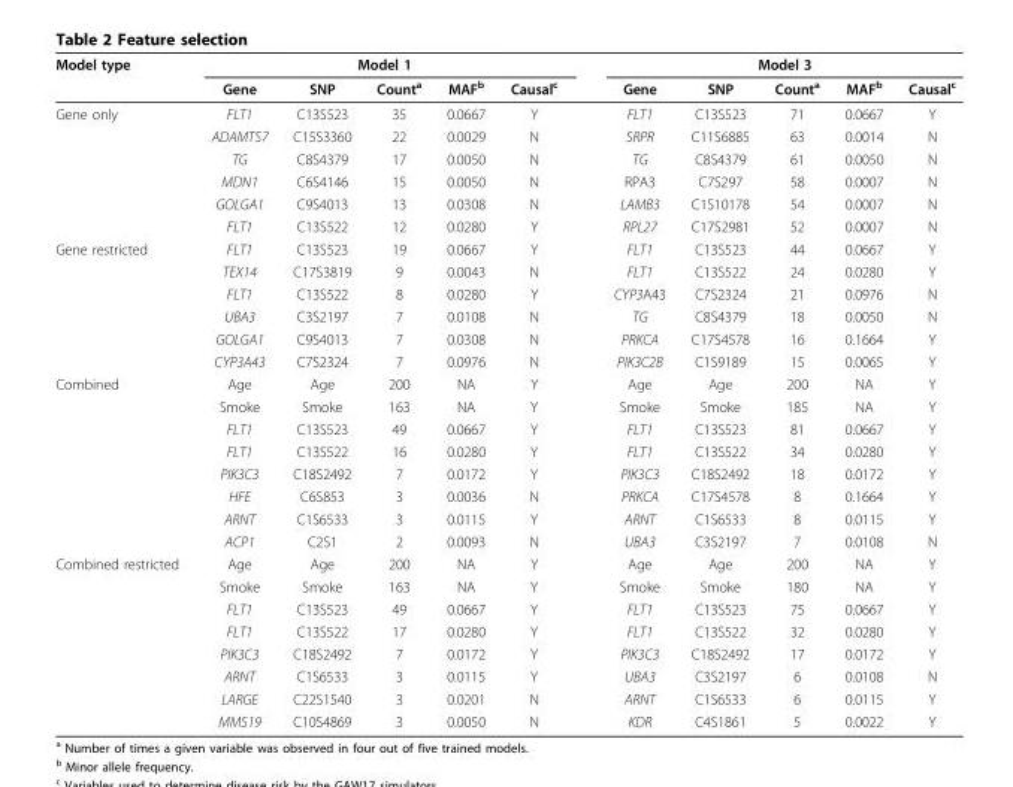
<table><thead><tr><td rowspan="2">Model type</td><td colspan="5">Model 1</td><td colspan="5">Model 3</td></tr><tr><td>Gene</td><td>SNP</td><td>Count<sup>a</sup></td><td>MAF<sup>b</sup></td><td>Causal<sup>c</sup></td><td>Gene</td><td>SNP</td><td>Count<sup>a</sup></td><td>MAF<sup>b</sup></td><td>Causal<sup>c</sup></td></tr></thead><tbody><tr><td rowspan="6">Gene only</td><td>FLT1</td><td>C13S523</td><td>35</td><td>0.0667</td><td>Y</td><td>FLT1</td><td>C13S523</td><td>71</td><td>0.0667</td><td>Y</td></tr><tr><td>ADAMTS7</td><td>C15S3360</td><td>22</td><td>0.0029</td><td>N</td><td>SRPR</td><td>C11S6885</td><td>63</td><td>0.0014</td><td>N</td></tr><tr><td>TG</td><td>C8S4379</td><td>17</td><td>0.0050</td><td>N</td><td>TG</td><td>C8S4379</td><td>61</td><td>0.0050</td><td>N</td></tr><tr><td>MDN1</td><td>C6S4146</td><td>15</td><td>0.0050</td><td>N</td><td>RPA3</td><td>C7S297</td><td>58</td><td>0.0007</td><td>N</td></tr><tr><td>GOLGA1</td><td>C9S4013</td><td>13</td><td>0.0308</td><td>N</td><td>LAMB3</td><td>C1S10178</td><td>54</td><td>0.0007</td><td>N</td></tr><tr><td>FLT1</td><td>C13S522</td><td>12</td><td>0.0280</td><td>Y</td><td>RPL27</td><td>C17S2981</td><td>52</td><td>0.0007</td><td>N</td></tr><tr><td rowspan="6">Gene restricted</td><td>FLT1</td><td>C13S523</td><td>19</td><td>0.0667</td><td>Y</td><td>FLT1</td><td>C13S523</td><td>44</td><td>0.0667</td><td>Y</td></tr><tr><td>TEX14</td><td>C17S3819</td><td>9</td><td>0.0043</td><td>N</td><td>FLT1</td><td>C13S522</td><td>24</td><td>0.0280</td><td>Y</td></tr><tr><td>FLT1</td><td>C13S522</td><td>8</td><td>0.0280</td><td>Y</td><td>CYP3A43</td><td>C7S2324</td><td>21</td><td>0.0976</td><td>N</td></tr><tr><td>UBA3</td><td>C3S2197</td><td>7</td><td>0.0108</td><td>N</td><td>TG</td><td>C8S4379</td><td>18</td><td>0.0050</td><td>N</td></tr><tr><td>GOLGA1</td><td>C9S4013</td><td>7</td><td>0.0308</td><td>N</td><td>PRKCA</td><td>C17S4578</td><td>16</td><td>0.1664</td><td>Y</td></tr><tr><td>CYP3A43</td><td>C7S2324</td><td>7</td><td>0.0976</td><td>N</td><td>PIK3C2B</td><td>C1S9189</td><td>15</td><td>0.0065</td><td>Y</td></tr><tr><td rowspan="8">Combined</td><td>Age</td><td>Age</td><td>200</td><td>NA</td><td>Y</td><td>Age</td><td>Age</td><td>200</td><td>NA</td><td>Y</td></tr><tr><td>Smoke</td><td>Smoke</td><td>163</td><td>NA</td><td>Y</td><td>Smoke</td><td>Smoke</td><td>185</td><td>NA</td><td>Y</td></tr><tr><td>FLT1</td><td>C13S523</td><td>49</td><td>0.0667</td><td>Y</td><td>FLT1</td><td>C13S523</td><td>81</td><td>0.0667</td><td>Y</td></tr><tr><td>FLT1</td><td>C13S522</td><td>16</td><td>0.0280</td><td>Y</td><td>FLT1</td><td>C13S522</td><td>34</td><td>0.0280</td><td>Y</td></tr><tr><td>PIK3C3</td><td>C18S2492</td><td>7</td><td>0.0172</td><td>Y</td><td>PIK3C3</td><td>C18S2492</td><td>18</td><td>0.0172</td><td>Y</td></tr><tr><td>HFE</td><td>C6S853</td><td>3</td><td>0.0036</td><td>N</td><td>PRKCA</td><td>C17S4578</td><td>8</td><td>0.1664</td><td>Y</td></tr><tr><td>ARNT</td><td>C1S6533</td><td>3</td><td>0.0115</td><td>Y</td><td>ARNT</td><td>C1S6533</td><td>8</td><td>0.0115</td><td>Y</td></tr><tr><td>ACP1</td><td>C2S1</td><td>2</td><td>0.0093</td><td>N</td><td>UBA3</td><td>C3S2197</td><td>7</td><td>0.0108</td><td>N</td></tr><tr><td rowspan="8">Combined restricted</td><td>Age</td><td>Age</td><td>200</td><td>NA</td><td>Y</td><td>Age</td><td>Age</td><td>200</td><td>NA</td><td>Y</td></tr><tr><td>Smoke</td><td>Smoke</td><td>163</td><td>NA</td><td>Y</td><td>Smoke</td><td>Smoke</td><td>180</td><td>NA</td><td>Y</td></tr><tr><td>FLT1</td><td>C13S523</td><td>49</td><td>0.0667</td><td>Y</td><td>FLT1</td><td>C13S523</td><td>75</td><td>0.0667</td><td>Y</td></tr><tr><td>FLT1</td><td>C13S522</td><td>17</td><td>0.0280</td><td>Y</td><td>FLT1</td><td>C13S522</td><td>32</td><td>0.0280</td><td>Y</td></tr><tr><td>PIK3C3</td><td>C18S2492</td><td>7</td><td>0.0172</td><td>Y</td><td>PIK3C3</td><td>C18S2492</td><td>17</td><td>0.0172</td><td>Y</td></tr><tr><td>ARNT</td><td>C1S6533</td><td>3</td><td>0.0115</td><td>Y</td><td>UBA3</td><td>C3S2197</td><td>6</td><td>0.0108</td><td>N</td></tr><tr><td>LARGE</td><td>C22S1540</td><td>3</td><td>0.0201</td><td>N</td><td>ARNT</td><td>C1S6533</td><td>6</td><td>0.0115</td><td>Y</td></tr><tr><td>MMS19</td><td>C10S4869</td><td>3</td><td>0.0050</td><td>N</td><td>KDR</td><td>C4S1861</td><td>5</td><td>0.0022</td><td>Y</td></tr></tbody></table>